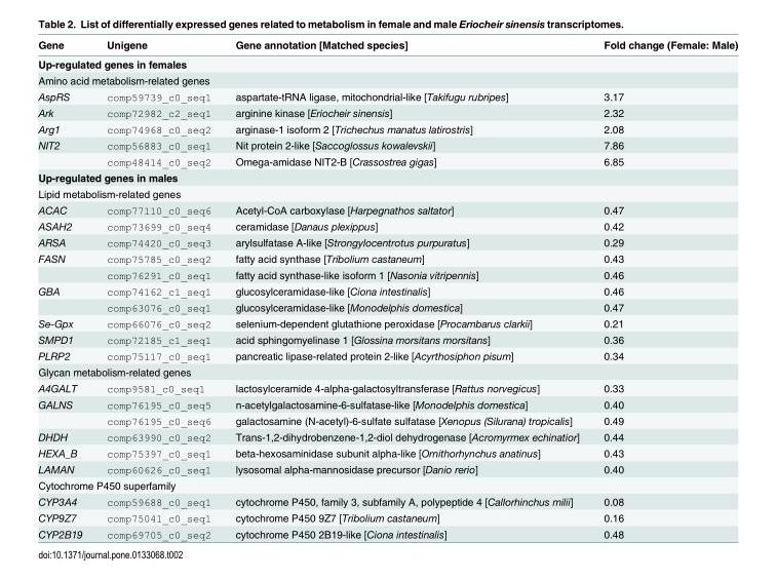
<table><thead><tr><td>Gene</td><td>Unigene</td><td>Gene annotation [Matched species]</td><td>Fold change (Female: Male)</td></tr></thead><tbody><tr><td colspan="4">Up-regulated genes in females</td></tr><tr><td colspan="4">Amino acid metabolism-related genes</td></tr><tr><td>AspRS</td><td>comp59739_c0_seq1</td><td>aspartate-tRNA ligase, mitochondrial-like [Takifugu rubripes]</td><td>3.17</td></tr><tr><td>Ark</td><td>comp72982_c2_seq1</td><td>arginine kinase [Eriocheir sinensis]</td><td>2.32</td></tr><tr><td>Arg1</td><td>comp74968_c0_seq2</td><td>arginase-1 isoform 2 [Trichechus manatus latirostris]</td><td>2.08</td></tr><tr><td rowspan="2">NIT2</td><td>comp56883_c0_seq1</td><td>Nit protein 2-like [Saccoglossus kowalevskii]</td><td>7.86</td></tr><tr><td>comp48414_c0_seq2</td><td>Omega-amidase NIT2-B [Crassostrea gigas]</td><td>6.85</td></tr><tr><td colspan="4">Up-regulated genes in males</td></tr><tr><td colspan="4">Lipid metabolism-related genes</td></tr><tr><td>ACAC</td><td>comp77110_c0_seq6</td><td>Acetyl-CoA carboxylase [Harpegnathos saltator]</td><td>0.47</td></tr><tr><td>ASAH2</td><td>comp73699_c0_seq4</td><td>ceramidase [Danaus plexippus]</td><td>0.42</td></tr><tr><td>ARSA</td><td>comp74420_c0_seq3</td><td>arylsulfatase A-like [Strongylocentrotus purpuratus]</td><td>0.29</td></tr><tr><td rowspan="2">FASN</td><td>comp75785_c0_seq2</td><td>fatty acid synthase [Tribolium castaneum]</td><td>0.43</td></tr><tr><td>comp76291_c0_seq1</td><td>fatty acid synthase-like isoform 1 [Nasonia vitripennis]</td><td>0.46</td></tr><tr><td rowspan="2">GBA</td><td>comp74162_c1_seq1</td><td>glucosylceramidase-like [Ciona intestinalis]</td><td>0.46</td></tr><tr><td>comp63076_c0_seq1</td><td>glucosylceramidase-like [Monodelphis domestica]</td><td>0.47</td></tr><tr><td>Se-Gpx</td><td>comp66076_c0_seq2</td><td>selenium-dependent glutathione peroxidase [Procambarus clarkii]</td><td>0.21</td></tr><tr><td>SMPD1</td><td>comp72185_c1_seq1</td><td>acid sphingomyelinase 1 [Glossina morsitans morsitans]</td><td>0.36</td></tr><tr><td>PLRP2</td><td>comp75117_c0_seq1</td><td>pancreatic lipase-related protein 2-like [Acyrthosiphon pisum]</td><td>0.34</td></tr><tr><td colspan="4">Glycan metabolism-related genes</td></tr><tr><td>A4GALT</td><td>comp9581_c0_seq1</td><td>lactosylceramide 4-alpha-galactosyltransferase [Rattus norvegicus]</td><td>0.33</td></tr><tr><td rowspan="2">GALNS</td><td>comp76195_c0_seq5</td><td>n-acetylgalactosamine-6-sulfatase-like [Monodelphis domestica]</td><td>0.40</td></tr><tr><td>comp76195_c0_seq6</td><td>galactosamine (N-acetyl)-6-sulfate sulfatase [Xenopus (Silurana) tropicalis]</td><td>0.49</td></tr><tr><td>DHDH</td><td>comp63990_c0_seq2</td><td>Trans-1,2-dihydrobenzene-1,2-diol dehydrogenase [Acromyrmex echinatior]</td><td>0.44</td></tr><tr><td>HEXA_B</td><td>comp75397_c0_seq1</td><td>beta-hexosaminidase subunit alpha-like [Ornithorhynchus anatinus]</td><td>0.43</td></tr><tr><td>LAMAN</td><td>comp60626_c0_seq1</td><td>lysosomal alpha-mannosidase precursor [Danio rerio]</td><td>0.40</td></tr><tr><td colspan="4">Cytochrome P450 superfamily</td></tr><tr><td>CYP3A4</td><td>comp59688_c0_seq1</td><td>cytochrome P450, family 3, subfamily A, polypeptide 4 [Callorhinchus milii]</td><td>0.08</td></tr><tr><td>CYP9Z7</td><td>comp75041_c0_seq1</td><td>cytochrome P450 9Z7 [Tribolium castaneum]</td><td>0.16</td></tr><tr><td>CYP2B19</td><td>comp69705_c0_seq2</td><td>cytochrome P450 2B19-like [Ciona intestinalis]</td><td>0.48</td></tr></tbody></table>